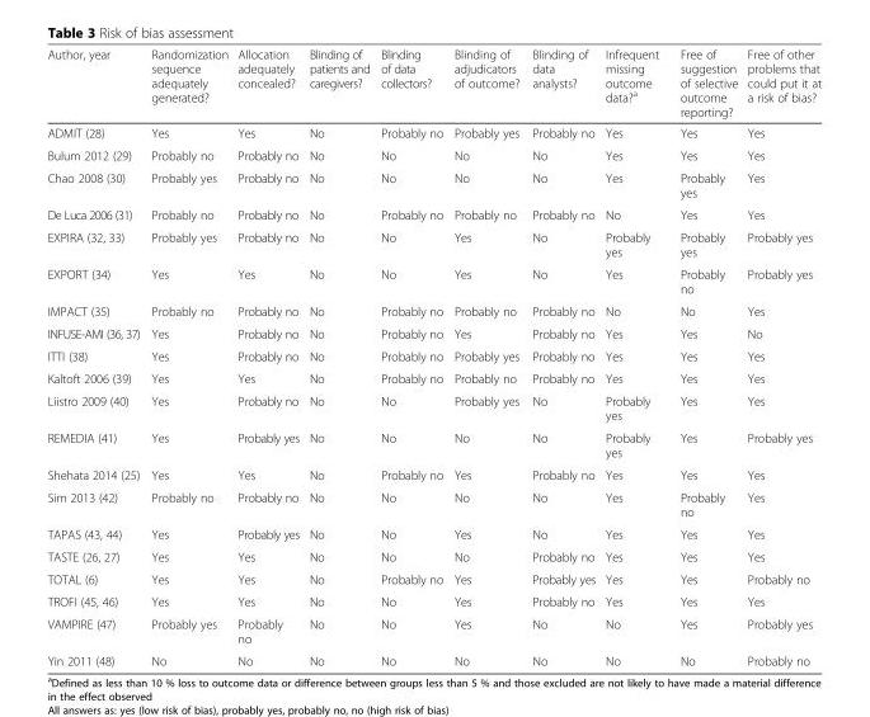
<table><thead><tr><td>Author, year</td><td>Randomization sequence adequately generated?</td><td>Allocation adequately concealed?</td><td>Blinding of patients and caregivers?</td><td>Blinding of data collectors?</td><td>Blinding of adjudicators of outcome?</td><td>Blinding of data analysts?</td><td>Infrequent missing outcome data?<sup>a</sup></td><td>Free of suggestion of selective outcome reporting?</td><td>Free of other problems that could put it at a risk of bias?</td></tr></thead><tbody><tr><td>ADMIT (28)</td><td>Yes</td><td>Yes</td><td>No</td><td>Probably no</td><td>Probably yes</td><td>Probably no</td><td>Yes</td><td>Yes</td><td>Yes</td></tr><tr><td>Bulum 2012 (29)</td><td>Probably no</td><td>Probably no</td><td>No</td><td>No</td><td>No</td><td>No</td><td>Yes</td><td>Yes</td><td>Yes</td></tr><tr><td>Chao 2008 (30)</td><td>Probably yes</td><td>Probably no</td><td>No</td><td>No</td><td>No</td><td>No</td><td>Yes</td><td>Probably yes</td><td>Yes</td></tr><tr><td>De Luca 2006 (31)</td><td>Probably no</td><td>Probably no</td><td>No</td><td>Probably no</td><td>Probably no</td><td>Probably no</td><td>No</td><td>Yes</td><td>Yes</td></tr><tr><td>EXPIRA (32, 33)</td><td>Probably yes</td><td>Probably no</td><td>No</td><td>No</td><td>Yes</td><td>No</td><td>Probably yes</td><td>Probably yes</td><td>Probably yes</td></tr><tr><td>EXPORT (34)</td><td>Yes</td><td>Yes</td><td>No</td><td>No</td><td>Yes</td><td>No</td><td>Yes</td><td>Probably no</td><td>Probably yes</td></tr><tr><td>IMPACT (35)</td><td>Probably no</td><td>Probably no</td><td>No</td><td>Probably no</td><td>Probably no</td><td>Probably no</td><td>No</td><td>No</td><td>Yes</td></tr><tr><td>INFUSE-AMI (36, 37)</td><td>Yes</td><td>Probably no</td><td>No</td><td>Probably no</td><td>Yes</td><td>Probably no</td><td>Yes</td><td>Yes</td><td>No</td></tr><tr><td>ITTI (38)</td><td>Yes</td><td>Probably no</td><td>No</td><td>Probably no</td><td>Probably yes</td><td>Probably no</td><td>Yes</td><td>Yes</td><td>Yes</td></tr><tr><td>Kaltoft 2006 (39)</td><td>Yes</td><td>Yes</td><td>No</td><td>Probably no</td><td>Probably no</td><td>Probably no</td><td>Yes</td><td>Yes</td><td>Yes</td></tr><tr><td>Liistro 2009 (40)</td><td>Yes</td><td>Probably no</td><td>No</td><td>No</td><td>Probably yes</td><td>No</td><td>Probably yes</td><td>Yes</td><td>Yes</td></tr><tr><td>REMEDIA (41)</td><td>Yes</td><td>Probably yes</td><td>No</td><td>No</td><td>No</td><td>No</td><td>Probably yes</td><td>Yes</td><td>Probably yes</td></tr><tr><td>Shehata 2014 (25)</td><td>Yes</td><td>Yes</td><td>No</td><td>Probably no</td><td>Yes</td><td>Probably no</td><td>Yes</td><td>Yes</td><td>Yes</td></tr><tr><td>Sim 2013 (42)</td><td>Probably no</td><td>Probably no</td><td>No</td><td>No</td><td>No</td><td>No</td><td>Yes</td><td>Probably no</td><td>Yes</td></tr><tr><td>TAPAS (43, 44)</td><td>Yes</td><td>Probably yes</td><td>No</td><td>No</td><td>Yes</td><td>No</td><td>Yes</td><td>Yes</td><td>Yes</td></tr><tr><td>TASTE (26, 27)</td><td>Yes</td><td>Yes</td><td>No</td><td>No</td><td>No</td><td>Probably no</td><td>Yes</td><td>Yes</td><td>Yes</td></tr><tr><td>TOTAL (6)</td><td>Yes</td><td>Yes</td><td>No</td><td>Probably no</td><td>Yes</td><td>Probably yes</td><td>Yes</td><td>Yes</td><td>Probably no</td></tr><tr><td>TROFI (45, 46)</td><td>Yes</td><td>Yes</td><td>No</td><td>No</td><td>Yes</td><td>Probably no</td><td>Yes</td><td>Yes</td><td>Yes</td></tr><tr><td>VAMPIRE (47)</td><td>Probably yes</td><td>Probably no</td><td>No</td><td>No</td><td>Yes</td><td>No</td><td>No</td><td>Yes</td><td>Probably yes</td></tr><tr><td>Yin 2011 (48)</td><td>No</td><td>No</td><td>No</td><td>No</td><td>No</td><td>No</td><td>No</td><td>No</td><td>Probably no</td></tr></tbody></table>